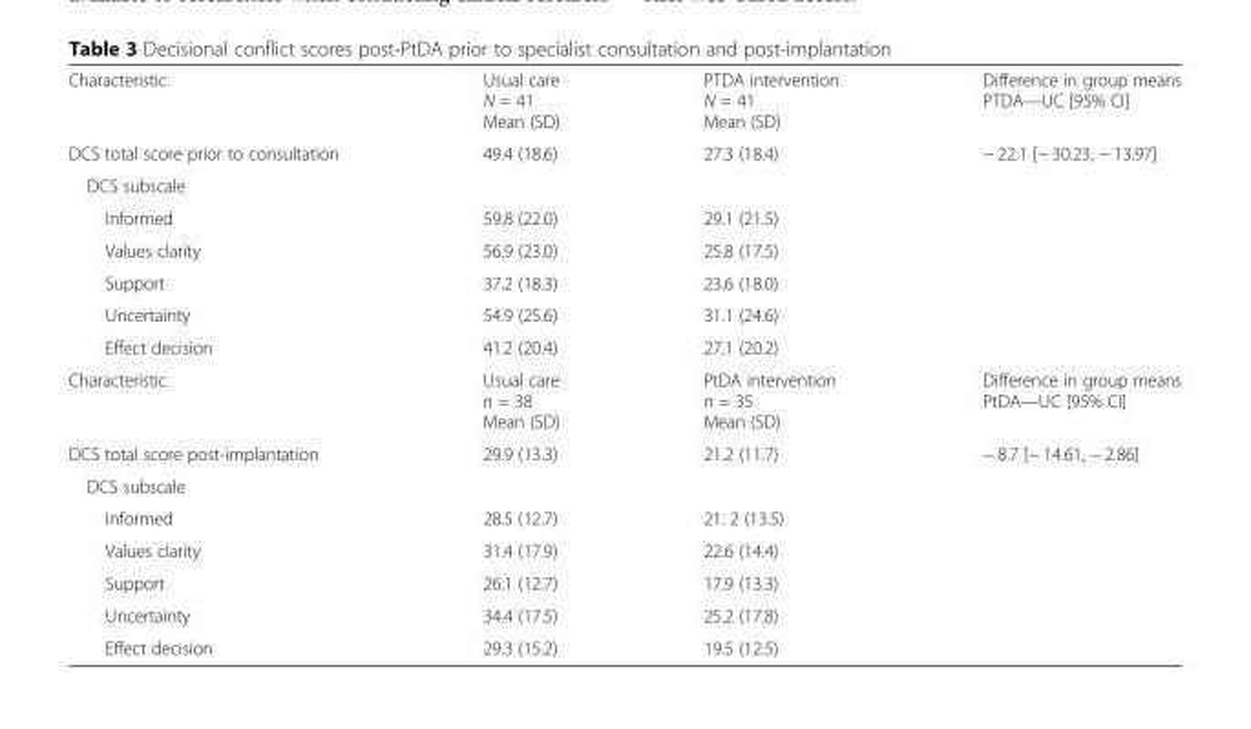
<table><tbody><tr><td>Characteristic</td><td>Usual care N = 41 Mean (SD)</td><td>PTDA intervention N = 41 Mean (SD)</td><td>Difference in group means PTDA—UC [95% CI]</td></tr><tr><td>DCS total score prior to consultation</td><td>49.4 (18.6)</td><td>27.3 (18.4)</td><td>− 22.1 [− 30.23, − 13.97]</td></tr><tr><td colspan="4">DCS subscale</td></tr><tr><td>Informed</td><td>59.8 (22.0)</td><td>29.1 (21.5)</td><td></td></tr><tr><td>Values clarity</td><td>56.9 (23.0)</td><td>25.8 (17.5)</td><td></td></tr><tr><td>Support</td><td>37.2 (18.3)</td><td>23.6 (18.0)</td><td></td></tr><tr><td>Uncertainty</td><td>54.9 (25.6)</td><td>31.1 (24.6)</td><td></td></tr><tr><td>Effect decision</td><td>41.2 (20.4)</td><td>27.1 (20.2)</td><td></td></tr><tr><td>Characteristic</td><td>Usual care n = 38 Mean (SD)</td><td>PtDA intervention n = 35 Mean (SD)</td><td>Difference in group means PtDA—UC [95% CI]</td></tr><tr><td>DCS total score post-implantation</td><td>29.9 (13.3)</td><td>21.2 (11.7)</td><td>− 8.7 [− 14.61, − 2.86]</td></tr><tr><td colspan="4">DCS subscale</td></tr><tr><td>Informed</td><td>28.5 (12.7)</td><td>21. 2 (13.5)</td><td></td></tr><tr><td>Values clarity</td><td>31.4 (17.9)</td><td>22.6 (14.4)</td><td></td></tr><tr><td>Support</td><td>26.1 (12.7)</td><td>17.9 (13.3)</td><td></td></tr><tr><td>Uncertainty</td><td>34.4 (17.5)</td><td>25.2 (17.8)</td><td></td></tr><tr><td>Effect decision</td><td>29.3 (15.2)</td><td>19.5 (12.5)</td><td></td></tr></tbody></table>